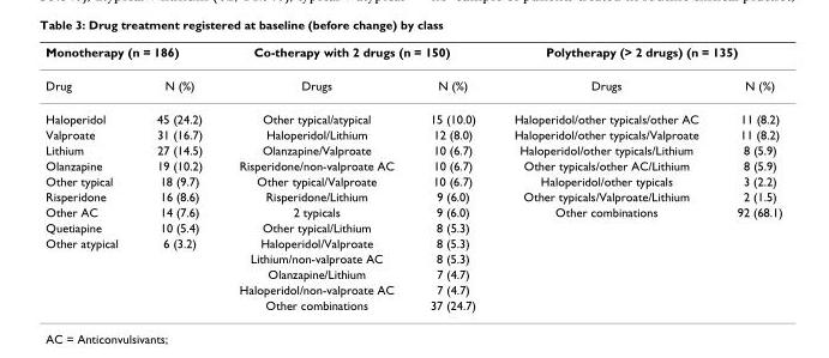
<table><thead><tr><td colspan="2">Monotherapy (n = 186)</td><td colspan="2">Co-therapy with 2 drugs (n = 150)</td><td colspan="2">Polytherapy (&gt; 2 drugs) (n = 135)</td></tr><tr><td>Drug</td><td>N (%)</td><td>Drugs</td><td>N (%)</td><td>Drugs</td><td>N (%)</td></tr></thead><tbody><tr><td>Haloperidol</td><td>45 (24.2)</td><td>Other typical/atypical</td><td>15 (10.0)</td><td>Haloperidol/other typicals/other AC</td><td>11 (8.2)</td></tr><tr><td>Valproate</td><td>31 (16.7)</td><td>Haloperidol/Lithium</td><td>12 (8.0)</td><td>Haloperidol/other typicals/Valproate</td><td>11 (8.2)</td></tr><tr><td>Lithium</td><td>27 (14.5)</td><td>Olanzapine/Valproate</td><td>10 (6.7)</td><td>Haloperidol/other typicals/Lithium</td><td>8 (5.9)</td></tr><tr><td>Olanzapine</td><td>19 (10.2)</td><td>Risperidone/non-valproate AC</td><td>10 (6.7)</td><td>Other typicals/other AC/Lithium</td><td>8 (5.9)</td></tr><tr><td>Other typical</td><td>18 (9.7)</td><td>Other typical/Valproate</td><td>10 (6.7)</td><td>Haloperidol/other typicals</td><td>3 (2.2)</td></tr><tr><td>Risperidone</td><td>16 (8.6)</td><td>Risperidone/Lithium</td><td>9 (6.0)</td><td>Other typicals/Valproate/Lithium</td><td>2 (1.5)</td></tr><tr><td>Other AC</td><td>14 (7.6)</td><td>2 typicals</td><td>9 (6.0)</td><td>Other combinations</td><td>92 (68.1)</td></tr><tr><td>Quetiapine</td><td>10 (5.4)</td><td>Other typical/Lithium</td><td>8 (5.3)</td><td></td><td></td></tr><tr><td rowspan="5">Other atypical</td><td>6 (3.2)</td><td>Haloperidol/Valproate</td><td>8 (5.3)</td><td></td><td></td></tr><tr><td></td><td>Lithium/non-valproate AC</td><td>8 (5.3)</td><td></td><td></td></tr><tr><td></td><td>Olanzapine/Lithium</td><td>7 (4.7)</td><td></td><td></td></tr><tr><td></td><td>Haloperidol/non-valproate AC</td><td>7 (4.7)</td><td></td><td></td></tr><tr><td></td><td>Other combinations</td><td>37 (24.7)</td><td></td><td></td></tr></tbody></table>